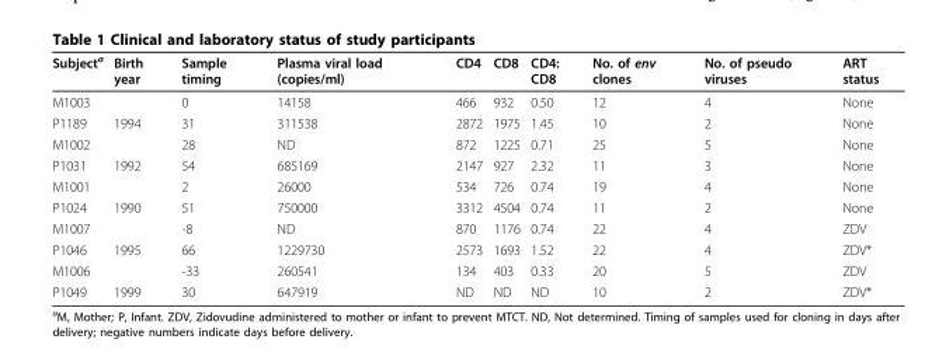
<table><thead><tr><td>Subject<sup>a</sup></td><td>Birth year</td><td>Sample timing</td><td>Plasma viral load (copies/ml)</td><td>CD4</td><td>CD8</td><td>CD4: CD8</td><td>No. of env clones</td><td>No. of pseudo viruses</td><td>ART status</td></tr></thead><tbody><tr><td>M1003</td><td></td><td>0</td><td>14158</td><td>466</td><td>932</td><td>0.50</td><td>12</td><td>4</td><td>None</td></tr><tr><td>P1189</td><td>1994</td><td>31</td><td>311538</td><td>2872</td><td>1975</td><td>1.45</td><td>10</td><td>2</td><td>None</td></tr><tr><td>M1002</td><td></td><td>28</td><td>ND</td><td>872</td><td>1225</td><td>0.71</td><td>25</td><td>5</td><td>None</td></tr><tr><td>P1031</td><td>1992</td><td>54</td><td>685169</td><td>2147</td><td>927</td><td>2.32</td><td>11</td><td>3</td><td>None</td></tr><tr><td>M1001</td><td></td><td>2</td><td>26000</td><td>534</td><td>726</td><td>0.74</td><td>19</td><td>4</td><td>None</td></tr><tr><td>P1024</td><td>1990</td><td>51</td><td>750000</td><td>3312</td><td>4504</td><td>0.74</td><td>11</td><td>2</td><td>None</td></tr><tr><td>M1007</td><td></td><td>-8</td><td>ND</td><td>870</td><td>1176</td><td>0.74</td><td>22</td><td>4</td><td>ZDV</td></tr><tr><td>P1046</td><td>1995</td><td>66</td><td>1229730</td><td>2573</td><td>1693</td><td>1.52</td><td>22</td><td>4</td><td>ZDV*</td></tr><tr><td>M1006</td><td></td><td>-33</td><td>260541</td><td>134</td><td>403</td><td>0.33</td><td>20</td><td>5</td><td>ZDV</td></tr><tr><td>P1049</td><td>1999</td><td>30</td><td>647919</td><td>ND</td><td>ND</td><td>ND</td><td>10</td><td>2</td><td>ZDV*</td></tr></tbody></table>